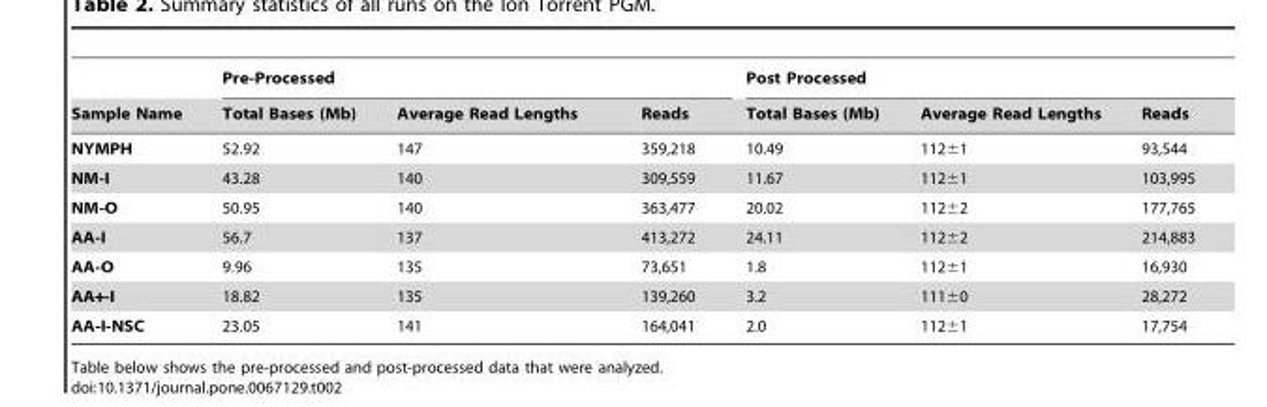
<table><thead><tr><td rowspan="2">Sample Name</td><td colspan="3">Pre-Processed</td><td colspan="3">Post Processed</td></tr><tr><td>Total Bases (Mb)</td><td>Average Read Lengths</td><td>Reads</td><td>Total Bases (Mb)</td><td>Average Read Lengths</td><td>Reads</td></tr></thead><tbody><tr><td>NYMPH</td><td>52.92</td><td>147</td><td>359,218</td><td>10.49</td><td>112±1</td><td>93,544</td></tr><tr><td>NM-I</td><td>43.28</td><td>140</td><td>309,559</td><td>11.67</td><td>112±1</td><td>103,995</td></tr><tr><td>NM-O</td><td>50.95</td><td>140</td><td>363,477</td><td>20.02</td><td>112±2</td><td>177,765</td></tr><tr><td>AA-I</td><td>56.7</td><td>137</td><td>413,272</td><td>24.11</td><td>112±2</td><td>214,883</td></tr><tr><td>AA-O</td><td>9.96</td><td>135</td><td>73,651</td><td>1.8</td><td>112±1</td><td>16,930</td></tr><tr><td>AA+-I</td><td>18.82</td><td>135</td><td>139,260</td><td>3.2</td><td>111±0</td><td>28,272</td></tr><tr><td>AA-I-NSC</td><td>23.05</td><td>141</td><td>164,041</td><td>2.0</td><td>112±1</td><td>17,754</td></tr></tbody></table>